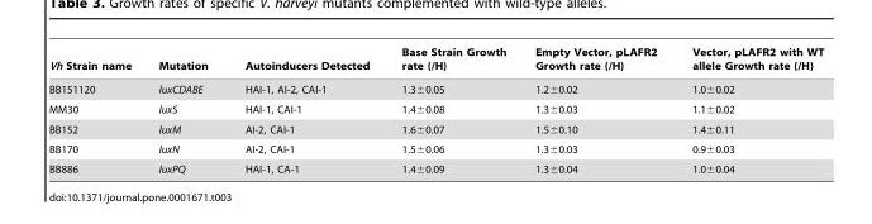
<table><thead><tr><td>Vh Strain name</td><td>Mutation</td><td>Autoinducers Detected</td><td>Base Strain Growth rate (/H)</td><td>Empty Vector, pLAFR2 Growth rate (/H)</td><td>Vector, pLAFR2 with WT allele Growth rate (/H)</td></tr></thead><tbody><tr><td>BB151120</td><td>luxCDABE</td><td>HAI-1, AI-2, CAI-1</td><td>1.3±0.05</td><td>1.2±0.02</td><td>1.0±0.02</td></tr><tr><td>MM30</td><td>luxS</td><td>HAI-1, CAI-1</td><td>1.4±0.08</td><td>1.3±0.03</td><td>1.1±0.02</td></tr><tr><td>BB152</td><td>luxM</td><td>AI-2, CAI-1</td><td>1.6±0.07</td><td>1.5±0.10</td><td>1.4±0.11</td></tr><tr><td>BB170</td><td>luxN</td><td>AI-2, CAI-1</td><td>1.5±0.06</td><td>1.3±0.03</td><td>0.9±0.03</td></tr><tr><td>BB886</td><td>luxPQ</td><td>HAI-1, CA-1</td><td>1.4±0.09</td><td>1.3±0.04</td><td>1.0±0.04</td></tr></tbody></table>